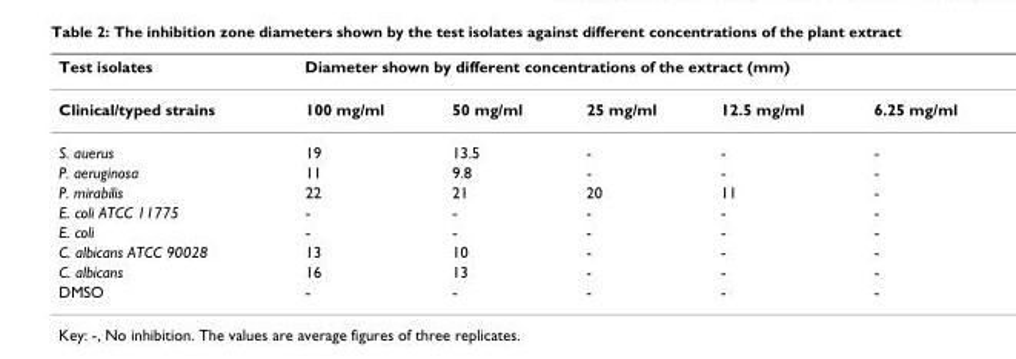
<table><thead><tr><td rowspan="2">Test isolates Clinical/typed strains</td><td colspan="5">Diameter shown by different concentrations of the extract (mm)</td></tr><tr><td>100 mg/ml</td><td>50 mg/ml</td><td>25 mg/ml</td><td>12.5 mg/ml</td><td>6.25 mg/ml</td></tr></thead><tbody><tr><td>S. auerus</td><td>19</td><td>13.5</td><td>-</td><td>-</td><td>-</td></tr><tr><td>P. aeruginosa</td><td>11</td><td>9.8</td><td>-</td><td>-</td><td>-</td></tr><tr><td>P. mirabilis</td><td>22</td><td>21</td><td>20</td><td>11</td><td>-</td></tr><tr><td>E. coli ATCC 11775</td><td>-</td><td>-</td><td>-</td><td>-</td><td>-</td></tr><tr><td>E. coli</td><td>-</td><td>-</td><td>-</td><td>-</td><td>-</td></tr><tr><td>C. albicans ATCC 90028</td><td>13</td><td>10</td><td>-</td><td>-</td><td>-</td></tr><tr><td>C. albicans</td><td>16</td><td>13</td><td>-</td><td>-</td><td>-</td></tr><tr><td>DMSO</td><td>-</td><td>-</td><td>-</td><td>-</td><td>-</td></tr></tbody></table>